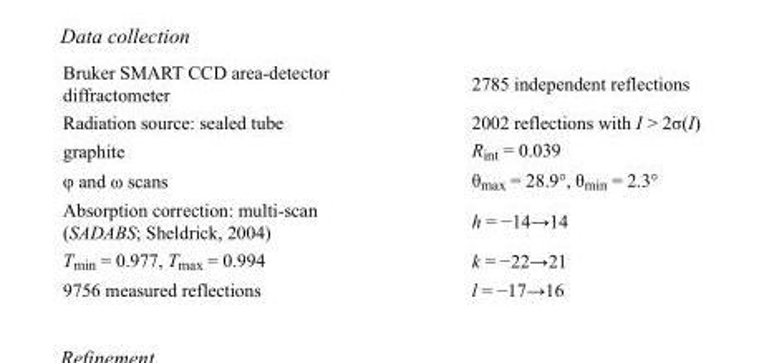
<table><tbody><tr><td>Bruker SMART CCD area-detector diffractometer</td><td>2785 independent reflections</td></tr><tr><td>Radiation source: sealed tube</td><td>2002 reflections with I &gt; 2σ(I)</td></tr><tr><td>graphite</td><td>R<sub>int</sub> = 0.039</td></tr><tr><td>φ and ω scans</td><td>θ<sub>max</sub> = 28.9°, θ<sub>min</sub> = 2.3°</td></tr><tr><td>Absorption correction: multi-scan (SADABS; Sheldrick, 2004)</td><td>h = −14→14</td></tr><tr><td>T<sub>min</sub> = 0.977, T<sub>max</sub> = 0.994</td><td>k = −22→21</td></tr><tr><td>9756 measured reflections</td><td>l = −17→16</td></tr></tbody></table>